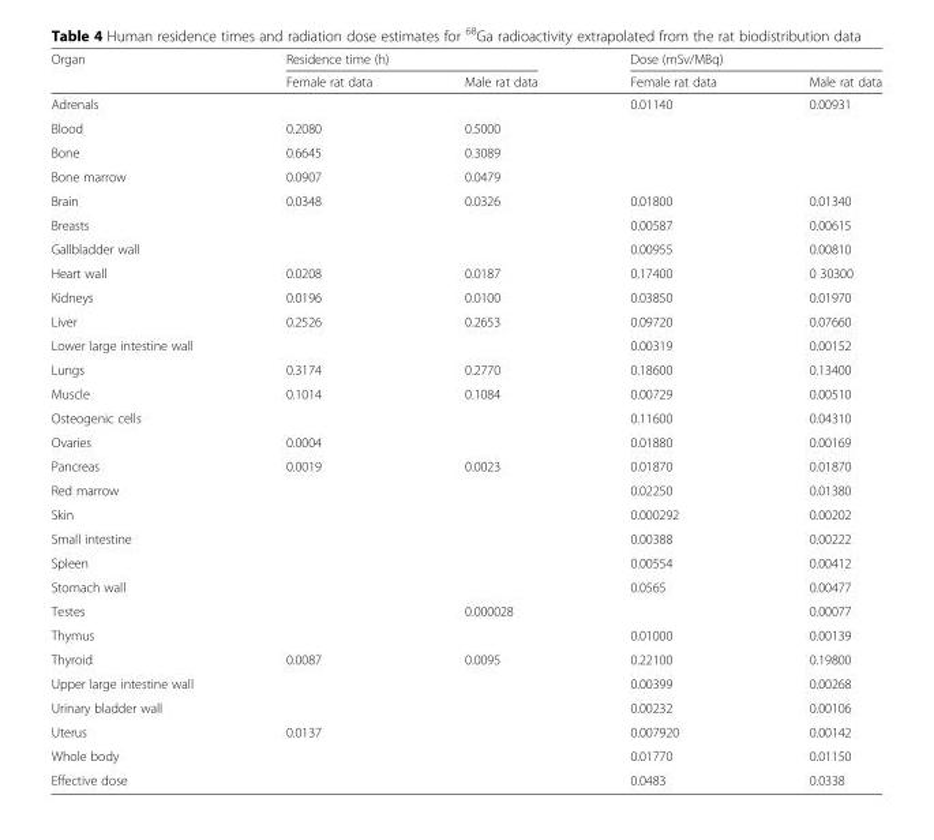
<table><thead><tr><td rowspan="2">Organ</td><td colspan="2">Residence time (h)</td><td colspan="2">Dose (mSv/MBq)</td></tr><tr><td>Female rat data</td><td>Male rat data</td><td>Female rat data</td><td>Male rat data</td></tr></thead><tbody><tr><td>Adrenals</td><td></td><td></td><td>0.01140</td><td>0.00931</td></tr><tr><td>Blood</td><td>0.2080</td><td>0.5000</td><td></td><td></td></tr><tr><td>Bone</td><td>0.6645</td><td>0.3089</td><td></td><td></td></tr><tr><td>Bone marrow</td><td>0.0907</td><td>0.0479</td><td></td><td></td></tr><tr><td>Brain</td><td>0.0348</td><td>0.0326</td><td>0.01800</td><td>0.01340</td></tr><tr><td>Breasts</td><td></td><td></td><td>0.00587</td><td>0.00615</td></tr><tr><td>Gallbladder wall</td><td></td><td></td><td>0.00955</td><td>0.00810</td></tr><tr><td>Heart wall</td><td>0.0208</td><td>0.0187</td><td>0.17400</td><td>0 30300</td></tr><tr><td>Kidneys</td><td>0.0196</td><td>0.0100</td><td>0.03850</td><td>0.01970</td></tr><tr><td>Liver</td><td>0.2526</td><td>0.2653</td><td>0.09720</td><td>0.07660</td></tr><tr><td>Lower large intestine wall</td><td></td><td></td><td>0.00319</td><td>0.00152</td></tr><tr><td>Lungs</td><td>0.3174</td><td>0.2770</td><td>0.18600</td><td>0.13400</td></tr><tr><td>Muscle</td><td>0.1014</td><td>0.1084</td><td>0.00729</td><td>0.00510</td></tr><tr><td>Osteogenic cells</td><td></td><td></td><td>0.11600</td><td>0.04310</td></tr><tr><td>Ovaries</td><td>0.0004</td><td></td><td>0.01880</td><td>0.00169</td></tr><tr><td>Pancreas</td><td>0.0019</td><td>0.0023</td><td>0.01870</td><td>0.01870</td></tr><tr><td>Red marrow</td><td></td><td></td><td>0.02250</td><td>0.01380</td></tr><tr><td>Skin</td><td></td><td></td><td>0.000292</td><td>0.00202</td></tr><tr><td>Small intestine</td><td></td><td></td><td>0.00388</td><td>0.00222</td></tr><tr><td>Spleen</td><td></td><td></td><td>0.00554</td><td>0.00412</td></tr><tr><td>Stomach wall</td><td></td><td></td><td>0.0565</td><td>0.00477</td></tr><tr><td>Testes</td><td></td><td>0.000028</td><td></td><td>0.00077</td></tr><tr><td>Thymus</td><td></td><td></td><td>0.01000</td><td>0.00139</td></tr><tr><td>Thyroid</td><td>0.0087</td><td>0.0095</td><td>0.22100</td><td>0.19800</td></tr><tr><td>Upper large intestine wall</td><td></td><td></td><td>0.00399</td><td>0.00268</td></tr><tr><td>Urinary bladder wall</td><td></td><td></td><td>0.00232</td><td>0.00106</td></tr><tr><td>Uterus</td><td>0.0137</td><td></td><td>0.007920</td><td>0.00142</td></tr><tr><td>Whole body</td><td></td><td></td><td>0.01770</td><td>0.01150</td></tr><tr><td>Effective dose</td><td></td><td></td><td>0.0483</td><td>0.0338</td></tr></tbody></table>